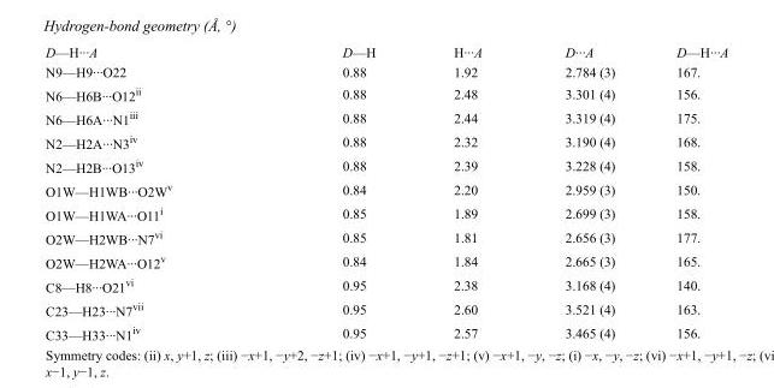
<table><tbody><tr><td>D—H···A</td><td>D—H</td><td>H···A</td><td>D···A</td><td>D—H···A</td></tr><tr><td>N9—H9···O22</td><td>0.88</td><td>1.92</td><td>2.784 (3)</td><td>167.</td></tr><tr><td>N6—H6B···O12<sup>ii</sup></td><td>0.88</td><td>2.48</td><td>3.301 (4)</td><td>156.</td></tr><tr><td>N6—H6A···N1<sup>iii</sup></td><td>0.88</td><td>2.44</td><td>3.319 (4)</td><td>175.</td></tr><tr><td>N2—H2A···N3<sup>iv</sup></td><td>0.88</td><td>2.32</td><td>3.190 (4)</td><td>168.</td></tr><tr><td>N2—H2B···O13<sup>iv</sup></td><td>0.88</td><td>2.39</td><td>3.228 (4)</td><td>158.</td></tr><tr><td>O1W—H1WB···O2W<sup>v</sup></td><td>0.84</td><td>2.20</td><td>2.959 (3)</td><td>150.</td></tr><tr><td>O1W—H1WA···O11<sup>i</sup></td><td>0.85</td><td>1.89</td><td>2.699 (3)</td><td>158.</td></tr><tr><td>O2W—H2WB···N7<sup>vi</sup></td><td>0.85</td><td>1.81</td><td>2.656 (3)</td><td>177.</td></tr><tr><td>O2W—H2WA···O12<sup>v</sup></td><td>0.84</td><td>1.84</td><td>2.665 (3)</td><td>165.</td></tr><tr><td>C8—H8···O21<sup>vi</sup></td><td>0.95</td><td>2.38</td><td>3.168 (4)</td><td>140.</td></tr><tr><td>C23—H23···N7<sup>vii</sup></td><td>0.95</td><td>2.60</td><td>3.521 (4)</td><td>163.</td></tr><tr><td>C33—H33···N1<sup>iv</sup></td><td>0.95</td><td>2.57</td><td>3.465 (4)</td><td>156.</td></tr></tbody></table>